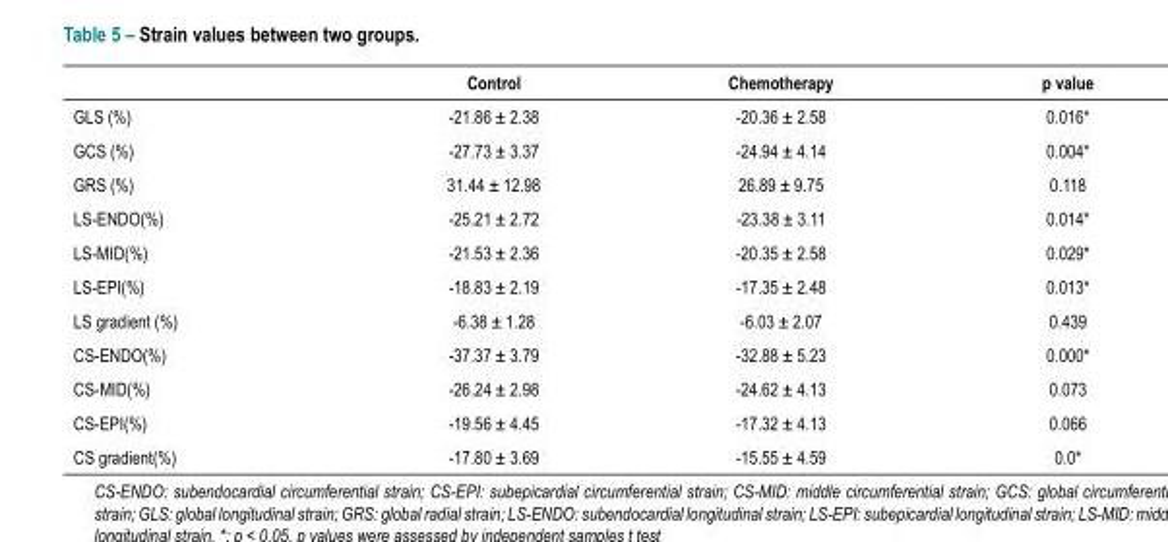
<table><thead><tr><td></td><td>Control</td><td>Chemotherapy</td><td>p value</td></tr></thead><tbody><tr><td>GLS (%)</td><td>-21.86 ± 2.38</td><td>-20.36 ± 2.58</td><td>0.016*</td></tr><tr><td>GCS (%)</td><td>-27.73 ± 3.37</td><td>-24.94 ± 4.14</td><td>0.004*</td></tr><tr><td>GRS (%)</td><td>31.44 ± 12.98</td><td>26.89 ± 9.75</td><td>0.118</td></tr><tr><td>LS-ENDO(%)</td><td>-25.21 ± 2.72</td><td>-23.38 ± 3.11</td><td>0.014*</td></tr><tr><td>LS-MID(%)</td><td>-21.53 ± 2.36</td><td>-20.35 ± 2.58</td><td>0.029*</td></tr><tr><td>LS-EPI(%)</td><td>-18.83 ± 2.19</td><td>-17.35 ± 2.48</td><td>0.013*</td></tr><tr><td>LS gradient (%)</td><td>-6.38 ± 1.28</td><td>-6.03 ± 2.07</td><td>0.439</td></tr><tr><td>CS-ENDO(%)</td><td>-37.37 ± 3.79</td><td>-32.88 ± 5.23</td><td>0.000*</td></tr><tr><td>CS-MID(%)</td><td>-26.24 ± 2.98</td><td>-24.62 ± 4.13</td><td>0.073</td></tr><tr><td>CS-EPI(%)</td><td>-19.56 ± 4.45</td><td>-17.32 ± 4.13</td><td>0.066</td></tr><tr><td>CS gradient(%)</td><td>-17.80 ± 3.69</td><td>-15.55 ± 4.59</td><td>0.0*</td></tr></tbody></table>